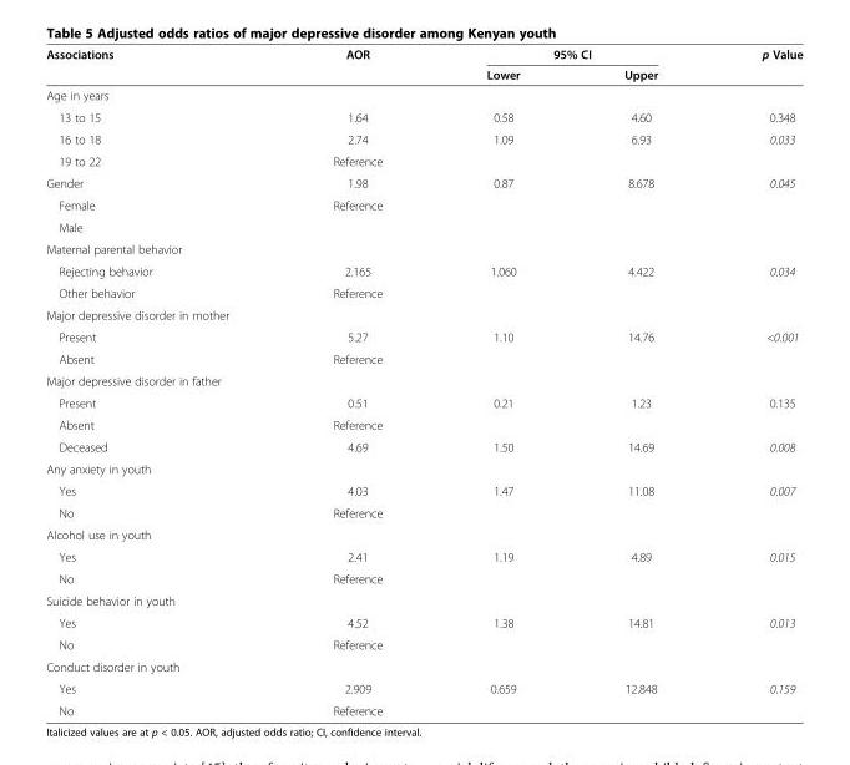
<table><thead><tr><td rowspan="2">Associations</td><td rowspan="2">AOR</td><td colspan="2">95% CI</td><td rowspan="2">p Value</td></tr><tr><td>Lower</td><td>Upper</td></tr></thead><tbody><tr><td colspan="5">Age in years</td></tr><tr><td>13 to 15</td><td>1.64</td><td>0.58</td><td>4.60</td><td>0.348</td></tr><tr><td>16 to 18</td><td>2.74</td><td>1.09</td><td>6.93</td><td>0.033</td></tr><tr><td>19 to 22</td><td>Reference</td><td></td><td></td><td></td></tr><tr><td>Gender</td><td>1.98</td><td>0.87</td><td>8.678</td><td>0.045</td></tr><tr><td>Female</td><td>Reference</td><td></td><td></td><td></td></tr><tr><td colspan="5">Male</td></tr><tr><td colspan="5">Maternal parental behavior</td></tr><tr><td>Rejecting behavior</td><td>2.165</td><td>1.060</td><td>4.422</td><td>0.034</td></tr><tr><td>Other behavior</td><td>Reference</td><td></td><td></td><td></td></tr><tr><td colspan="5">Major depressive disorder in mother</td></tr><tr><td>Present</td><td>5.27</td><td>1.10</td><td>14.76</td><td>&lt;0.001</td></tr><tr><td>Absent</td><td>Reference</td><td></td><td></td><td></td></tr><tr><td colspan="5">Major depressive disorder in father</td></tr><tr><td>Present</td><td>0.51</td><td>0.21</td><td>1.23</td><td>0.135</td></tr><tr><td>Absent</td><td>Reference</td><td></td><td></td><td></td></tr><tr><td>Deceased</td><td>4.69</td><td>1.50</td><td>14.69</td><td>0.008</td></tr><tr><td colspan="5">Any anxiety in youth</td></tr><tr><td>Yes</td><td>4.03</td><td>1.47</td><td>11.08</td><td>0.007</td></tr><tr><td>No</td><td>Reference</td><td></td><td></td><td></td></tr><tr><td colspan="5">Alcohol use in youth</td></tr><tr><td>Yes</td><td>2.41</td><td>1.19</td><td>4.89</td><td>0.015</td></tr><tr><td>No</td><td>Reference</td><td></td><td></td><td></td></tr><tr><td colspan="5">Suicide behavior in youth</td></tr><tr><td>Yes</td><td>4.52</td><td>1.38</td><td>14.81</td><td>0.013</td></tr><tr><td>No</td><td>Reference</td><td></td><td></td><td></td></tr><tr><td colspan="5">Conduct disorder in youth</td></tr><tr><td>Yes</td><td>2.909</td><td>0.659</td><td>12.848</td><td>0.159</td></tr><tr><td>No</td><td>Reference</td><td></td><td></td><td></td></tr></tbody></table>